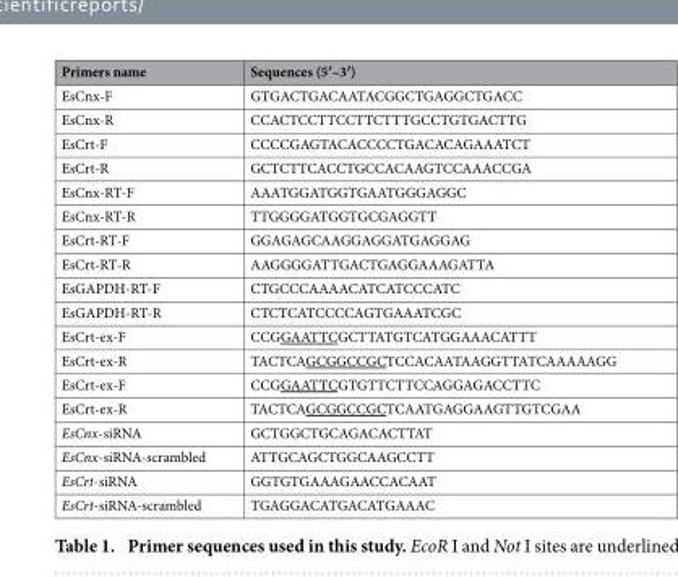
<table><thead><tr><td>Primers name</td><td>Sequences (5′–3′)</td></tr></thead><tbody><tr><td>EsCnx-F</td><td>GTGACTGACAATACGGCTGAGGCTGACC</td></tr><tr><td>EsCnx-R</td><td>CCACTCCTTCCTTCTTTGCCTGTGACTTG</td></tr><tr><td>EsCrt-F</td><td>CCCCGAGTACACCCCTGACACAGAAATCT</td></tr><tr><td>EsCrt-R</td><td>GCTCTTCACCTGCCACAAGTCCAAACCGA</td></tr><tr><td>EsCnx-RT-F</td><td>AAATGGATGGTGAATGGGAGGC</td></tr><tr><td>EsCnx-RT-R</td><td>TTGGGGATGGTGCGAGGTT</td></tr><tr><td>EsCrt-RT-F</td><td>GGAGAGCAAGGAGGATGAGGAG</td></tr><tr><td>EsCrt-RT-R</td><td>AAGGGGATTGACTGAGGAAAGATTA</td></tr><tr><td>EsGAPDH-RT-F</td><td>CTGCCCAAAACATCATCCCATC</td></tr><tr><td>EsGAPDH-RT-R</td><td>CTCTCATCCCCAGTGAAATCGC</td></tr><tr><td>EsCrt-ex-F</td><td>CCGGAATTCGCTTATGTCATGGAAACATTT</td></tr><tr><td>EsCrt-ex-R</td><td>TACTCAGCGGCCGCTCCACAATAAGGTTATCAAAAAGG</td></tr><tr><td>EsCrt-ex-F</td><td>CCGGAATTCGTGTTCTTCCAGGAGACCTTC</td></tr><tr><td>EsCrt-ex-R</td><td>TACTCAGCGGCCGCTCAATGAGGAAGTTGTCGAA</td></tr><tr><td>EsCnx-siRNA</td><td>GCTGGCTGCAGACACTTAT</td></tr><tr><td>EsCnx-siRNA-scrambled</td><td>ATTGCAGCTGGCAAGCCTT</td></tr><tr><td>EsCrt-siRNA</td><td>GGTGTGAAAGAACCACAAT</td></tr><tr><td>EsCrt-siRNA-scrambled</td><td>TGAGGACATGACATGAAAC</td></tr></tbody></table>